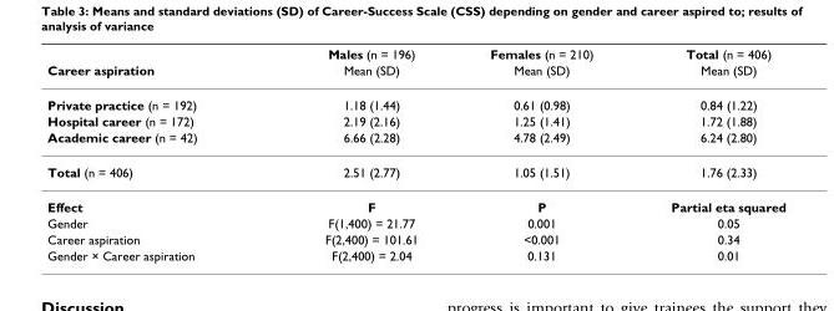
<table><thead><tr><td rowspan="2">Career aspiration</td><td rowspan="2">Males (n = 196) Mean (SD)</td><td rowspan="2">Females (n = 210) Mean (SD)</td><td rowspan="2">Total (n = 406) Mean (SD)</td></tr><tr></tr></thead><tbody><tr><td>Private practice (n = 192)</td><td>1.18 (1.44)</td><td>0.61 (0.98)</td><td>0.84 (1.22)</td></tr><tr><td>Hospital career (n = 172)</td><td>2.19 (2.16)</td><td>1.25 (1.41)</td><td>1.72 (1.88)</td></tr><tr><td>Academic career (n = 42)</td><td>6.66 (2.28)</td><td>4.78 (2.49)</td><td>6.24 (2.80)</td></tr><tr><td>Total (n = 406)</td><td>2.51 (2.77)</td><td>1.05 (1.51)</td><td>1.76 (2.33)</td></tr><tr><td>Effect</td><td>F</td><td>P</td><td>Partial eta squared</td></tr><tr><td>Gender</td><td>F(1,400) = 21.77</td><td>0.001</td><td>0.05</td></tr><tr><td>Career aspiration</td><td>F(2,400) = 101.61</td><td>&lt;0.001</td><td>0.34</td></tr><tr><td>Gender × Career aspiration</td><td>F(2,400) = 2.04</td><td>0.131</td><td>0.01</td></tr></tbody></table>